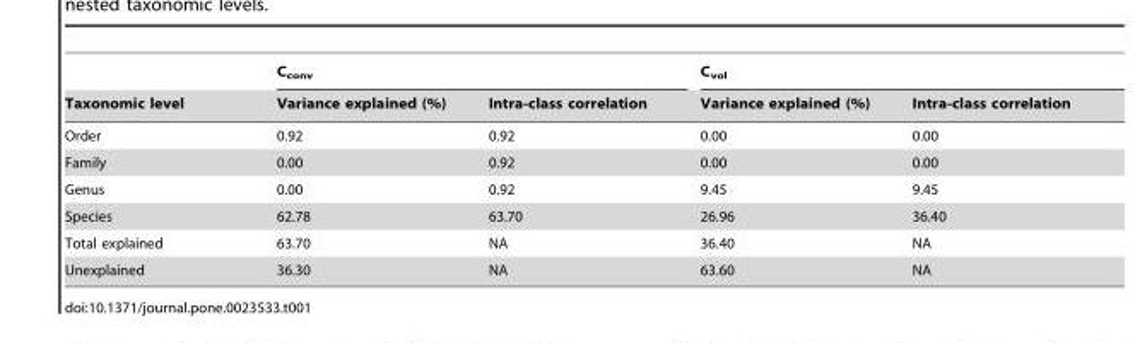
<table><thead><tr><td rowspan="2">Taxonomic level</td><td colspan="2">C<sub>conv</sub></td><td colspan="2">C<sub>vol</sub></td></tr><tr><td>Variance explained (%)</td><td>Intra-class correlation</td><td>Variance explained (%)</td><td>Intra-class correlation</td></tr></thead><tbody><tr><td>Order</td><td>0.92</td><td>0.92</td><td>0.00</td><td>0.00</td></tr><tr><td>Family</td><td>0.00</td><td>0.92</td><td>0.00</td><td>0.00</td></tr><tr><td>Genus</td><td>0.00</td><td>0.92</td><td>9.45</td><td>9.45</td></tr><tr><td>Species</td><td>62.78</td><td>63.70</td><td>26.96</td><td>36.40</td></tr><tr><td>Total explained</td><td>63.70</td><td>NA</td><td>36.40</td><td>NA</td></tr><tr><td>Unexplained</td><td>36.30</td><td>NA</td><td>63.60</td><td>NA</td></tr></tbody></table>